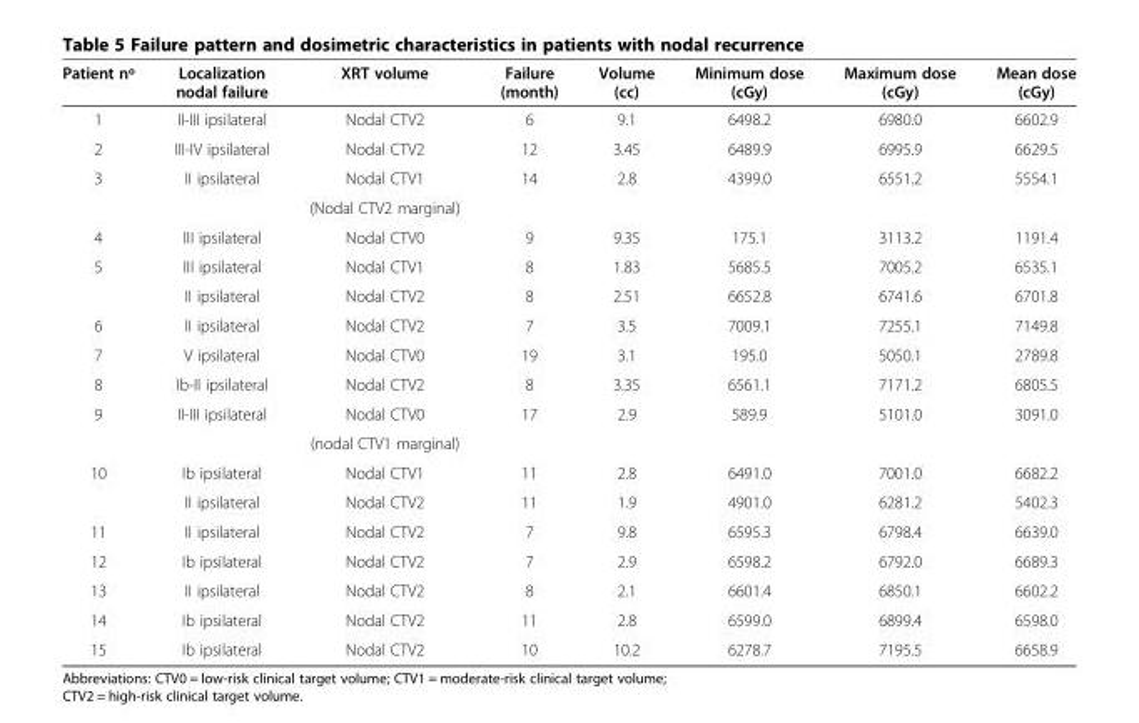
<table><thead><tr><td>Patient nº</td><td>Localization nodal failure</td><td>XRT volume</td><td>Failure (month)</td><td>Volume (cc)</td><td>Minimum dose (cGy)</td><td>Maximum dose (cGy)</td><td>Mean dose (cGy)</td></tr></thead><tbody><tr><td>1</td><td>II-III ipsilateral</td><td>Nodal CTV2</td><td>6</td><td>9.1</td><td>6498.2</td><td>6980.0</td><td>6602.9</td></tr><tr><td>2</td><td>III-IV ipsilateral</td><td>Nodal CTV2</td><td>12</td><td>3.45</td><td>6489.9</td><td>6995.9</td><td>6629.5</td></tr><tr><td rowspan="2">3</td><td>II ipsilateral</td><td>Nodal CTV1</td><td>14</td><td>2.8</td><td>4399.0</td><td>6551.2</td><td>5554.1</td></tr><tr><td></td><td>(Nodal CTV2 marginal)</td><td></td><td></td><td></td><td></td><td></td></tr><tr><td>4</td><td>III ipsilateral</td><td>Nodal CTV0</td><td>9</td><td>9.35</td><td>175.1</td><td>3113.2</td><td>1191.4</td></tr><tr><td rowspan="2">5</td><td>III ipsilateral</td><td>Nodal CTV1</td><td>8</td><td>1.83</td><td>5685.5</td><td>7005.2</td><td>6535.1</td></tr><tr><td>II ipsilateral</td><td>Nodal CTV2</td><td>8</td><td>2.51</td><td>6652.8</td><td>6741.6</td><td>6701.8</td></tr><tr><td>6</td><td>II ipsilateral</td><td>Nodal CTV2</td><td>7</td><td>3.5</td><td>7009.1</td><td>7255.1</td><td>7149.8</td></tr><tr><td>7</td><td>V ipsilateral</td><td>Nodal CTV0</td><td>19</td><td>3.1</td><td>195.0</td><td>5050.1</td><td>2789.8</td></tr><tr><td>8</td><td>Ib-II ipsilateral</td><td>Nodal CTV2</td><td>8</td><td>3.35</td><td>6561.1</td><td>7171.2</td><td>6805.5</td></tr><tr><td rowspan="2">9</td><td>II-III ipsilateral</td><td>Nodal CTV0</td><td>17</td><td>2.9</td><td>589.9</td><td>5101.0</td><td>3091.0</td></tr><tr><td></td><td>(nodal CTV1 marginal)</td><td></td><td></td><td></td><td></td><td></td></tr><tr><td rowspan="2">10</td><td>Ib ipsilateral</td><td>Nodal CTV1</td><td>11</td><td>2.8</td><td>6491.0</td><td>7001.0</td><td>6682.2</td></tr><tr><td>II ipsilateral</td><td>Nodal CTV2</td><td>11</td><td>1.9</td><td>4901.0</td><td>6281.2</td><td>5402.3</td></tr><tr><td>11</td><td>II ipsilateral</td><td>Nodal CTV2</td><td>7</td><td>9.8</td><td>6595.3</td><td>6798.4</td><td>6639.0</td></tr><tr><td>12</td><td>Ib ipsilateral</td><td>Nodal CTV2</td><td>7</td><td>2.9</td><td>6598.2</td><td>6792.0</td><td>6689.3</td></tr><tr><td>13</td><td>II ipsilateral</td><td>Nodal CTV2</td><td>8</td><td>2.1</td><td>6601.4</td><td>6850.1</td><td>6602.2</td></tr><tr><td>14</td><td>Ib ipsilateral</td><td>Nodal CTV2</td><td>11</td><td>2.8</td><td>6599.0</td><td>6899.4</td><td>6598.0</td></tr><tr><td>15</td><td>Ib ipsilateral</td><td>Nodal CTV2</td><td>10</td><td>10.2</td><td>6278.7</td><td>7195.5</td><td>6658.9</td></tr></tbody></table>